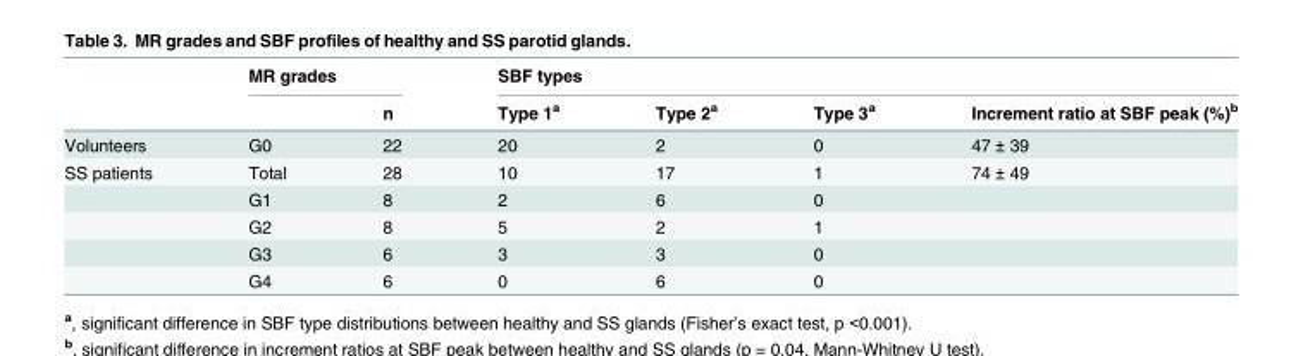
<table><thead><tr><td rowspan="2"></td><td colspan="2">MR grades</td><td colspan="4">SBF types</td></tr><tr><td></td><td>n</td><td>Type 1<sup>a</sup></td><td>Type 2<sup>a</sup></td><td>Type 3<sup>a</sup></td><td>Increment ratio at SBF peak (%)<sup>b</sup></td></tr></thead><tbody><tr><td>Volunteers</td><td>G0</td><td>22</td><td>20</td><td>2</td><td>0</td><td>47 ± 39</td></tr><tr><td rowspan="5">SS patients</td><td>Total</td><td>28</td><td>10</td><td>17</td><td>1</td><td>74 ± 49</td></tr><tr><td>G1</td><td>8</td><td>2</td><td>6</td><td>0</td><td></td></tr><tr><td>G2</td><td>8</td><td>5</td><td>2</td><td>1</td><td></td></tr><tr><td>G3</td><td>6</td><td>3</td><td>3</td><td>0</td><td></td></tr><tr><td>G4</td><td>6</td><td>0</td><td>6</td><td>0</td><td></td></tr></tbody></table>